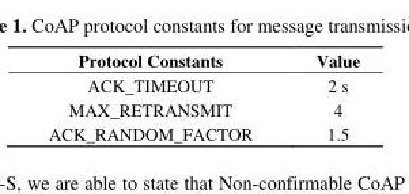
<table><thead><tr><td>Protocol Constants</td><td>Value</td></tr></thead><tbody><tr><td>ACK_TIMEOUT</td><td>2 s</td></tr><tr><td>MAX_RETRANSMIT</td><td>4</td></tr><tr><td>ACK_RANDOM_FACTOR</td><td>1.5</td></tr></tbody></table>